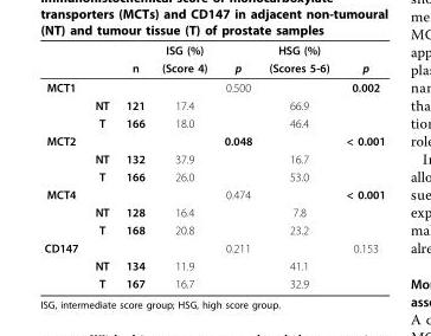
<table><thead><tr><td rowspan="2"></td><td rowspan="2"></td><td rowspan="2">n</td><td rowspan="2">ISG (%) (Score 4)</td><td rowspan="2">p</td><td rowspan="2">HSG (%) (Scores 5-6)</td><td rowspan="2">p</td></tr><tr></tr></thead><tbody><tr><td rowspan="3">MCT1</td><td></td><td></td><td></td><td>0.500</td><td></td><td>0.002</td></tr><tr><td>NT</td><td>121</td><td>17.4</td><td></td><td>66.9</td><td></td></tr><tr><td>T</td><td>166</td><td>18.0</td><td></td><td>46.4</td><td></td></tr><tr><td rowspan="3">MCT2</td><td></td><td></td><td></td><td>0.048</td><td></td><td>&lt; 0.001</td></tr><tr><td>NT</td><td>132</td><td>37.9</td><td></td><td>16.7</td><td></td></tr><tr><td>T</td><td>166</td><td>26.0</td><td></td><td>53.0</td><td></td></tr><tr><td rowspan="3">MCT4</td><td></td><td></td><td></td><td>0.474</td><td></td><td>&lt; 0.001</td></tr><tr><td>NT</td><td>128</td><td>16.4</td><td></td><td>7.8</td><td></td></tr><tr><td>T</td><td>168</td><td>20.8</td><td></td><td>23.2</td><td></td></tr><tr><td rowspan="3">CD147</td><td></td><td></td><td></td><td>0.211</td><td></td><td>0.153</td></tr><tr><td>NT</td><td>134</td><td>11.9</td><td></td><td>41.1</td><td></td></tr><tr><td>T</td><td>167</td><td>16.7</td><td></td><td>32.9</td><td></td></tr></tbody></table>